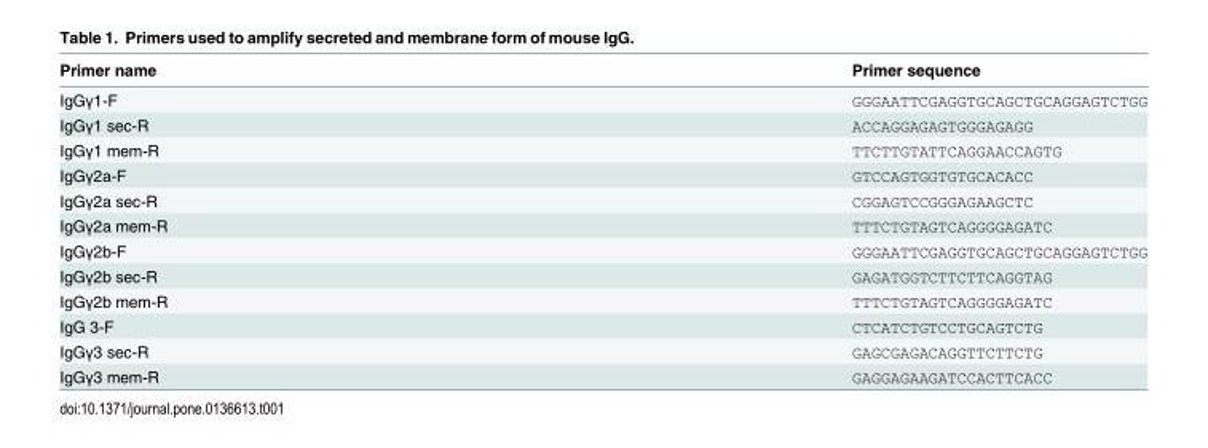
<table><thead><tr><td>Primer name</td><td>Primer sequence</td></tr></thead><tbody><tr><td>IgGγ1-F</td><td>GGGAATTCGAGGTGCAGCTGCAGGAGTCTGG</td></tr><tr><td>IgGγ1 sec-R</td><td>ACCAGGAGAGTGGGAGAGG</td></tr><tr><td>IgGγ1 mem-R</td><td>TTCTTGTATTCAGGAACCAGTG</td></tr><tr><td>IgGγ2a-F</td><td>GTCCAGTGGTGTGCACACC</td></tr><tr><td>IgGγ2a sec-R</td><td>CGGAGTCCGGGAGAAGCTC</td></tr><tr><td>IgGγ2a mem-R</td><td>TTTCTGTAGTCAGGGGAGATC</td></tr><tr><td>IgGγ2b-F</td><td>GGGAATTCGAGGTGCAGCTGCAGGAGTCTGG</td></tr><tr><td>IgGγ2b sec-R</td><td>GAGATGGTCTTCTTCAGGTAG</td></tr><tr><td>IgGγ2b mem-R</td><td>TTTCTGTAGTCAGGGGAGATC</td></tr><tr><td>IgG 3-F</td><td>CTCATCTGTCCTGCAGTCTG</td></tr><tr><td>IgGγ3 sec-R</td><td>GAGCGAGACAGGTTCTTCTG</td></tr><tr><td>IgGγ3 mem-R</td><td>GAGGAGAAGATCCACTTCACC</td></tr></tbody></table>